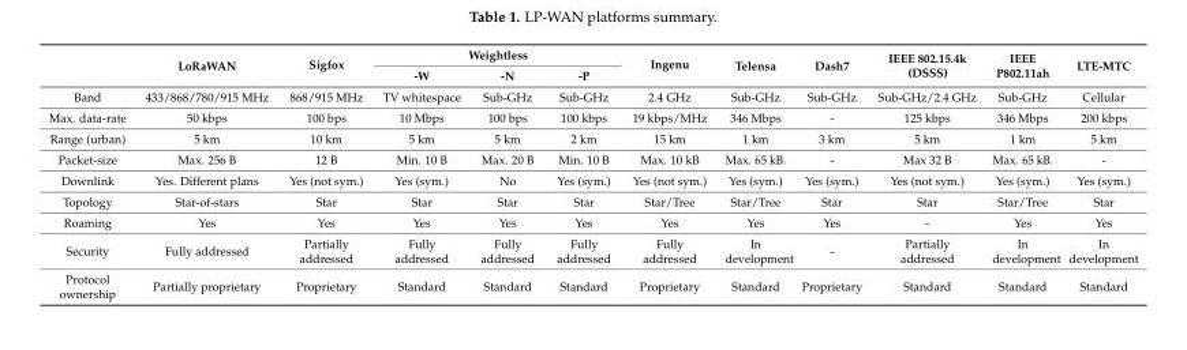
<table><thead><tr><td rowspan="2"></td><td rowspan="2">LoRaWAN</td><td rowspan="2">Sigfox</td><td colspan="3">Weightless</td><td rowspan="2">Ingenu</td><td rowspan="2">Telensa</td><td rowspan="2">Dash7</td><td rowspan="2">IEEE 802.15.4k (DSSS)</td><td rowspan="2">IEEE P802.11ah</td><td rowspan="2">LTE-MTC</td></tr><tr><td>-W</td><td>-N</td><td>-P</td></tr></thead><tbody><tr><td>Band</td><td>433/868/780/915 MHz</td><td>868/915 MHz</td><td>TV whitespace</td><td>Sub-GHz</td><td>Sub-GHz</td><td>2.4 GHz</td><td>Sub-GHz</td><td>Sub-GHz</td><td>Sub-GHz/2.4 GHz</td><td>Sub-GHz</td><td>Cellular</td></tr><tr><td>Max. data-rate</td><td>50 kbps</td><td>100 bps</td><td>10 Mbps</td><td>100 bps</td><td>100 kbps</td><td>19 kbps/MHz</td><td>346 Mbps</td><td>-</td><td>125 kbps</td><td>346 Mbps</td><td>200 kbps</td></tr><tr><td>Range (urban)</td><td>5 km</td><td>10 km</td><td>5 km</td><td>5 km</td><td>2 km</td><td>15 km</td><td>1 km</td><td>3 km</td><td>5 km</td><td>1 km</td><td>5 km</td></tr><tr><td>Packet-size</td><td>Max. 256 B</td><td>12 B</td><td>Min. 10 B</td><td>Max. 20 B</td><td>Min. 10 B</td><td>Max. 10 kB</td><td>Max. 65 kB.</td><td>-</td><td>Max 32 B</td><td>Max. 65 kB.</td><td>-</td></tr><tr><td>Downlink</td><td>Yes. Different plans</td><td>Yes (not sym.)</td><td>Yes (sym.)</td><td>No</td><td>Yes (sym.)</td><td>Yes (not sym.)</td><td>Yes (sym.)</td><td>Yes (sym.)</td><td>Yes (not sym.)</td><td>Yes (sym.)</td><td>Yes (sym.)</td></tr><tr><td>Topology</td><td>Star-of-stars</td><td>Star</td><td>Star</td><td>Star</td><td>Star</td><td>Star/Tree</td><td>Star/Tree</td><td>Star</td><td>Star</td><td>Star/Tree</td><td>Star</td></tr><tr><td>Roaming</td><td>Yes</td><td>Yes</td><td>Yes</td><td>Yes</td><td>Yes</td><td>Yes</td><td>Yes</td><td>Yes</td><td>-</td><td>Yes</td><td>Yes</td></tr><tr><td>Security</td><td>Fully addressed</td><td>Partially addressed</td><td>Fully addressed</td><td>Fully addressed</td><td>Fully addressed</td><td>Fully addressed</td><td>In development</td><td>-</td><td>Partially addressed</td><td>In development</td><td>In development</td></tr><tr><td>Protocol ownership</td><td>Partially proprietary</td><td>Proprietary</td><td>Standard</td><td>Standard</td><td>Standard</td><td>Proprietary</td><td>Standard</td><td>Proprietary</td><td>Standard</td><td>Standard</td><td>Standard</td></tr></tbody></table>